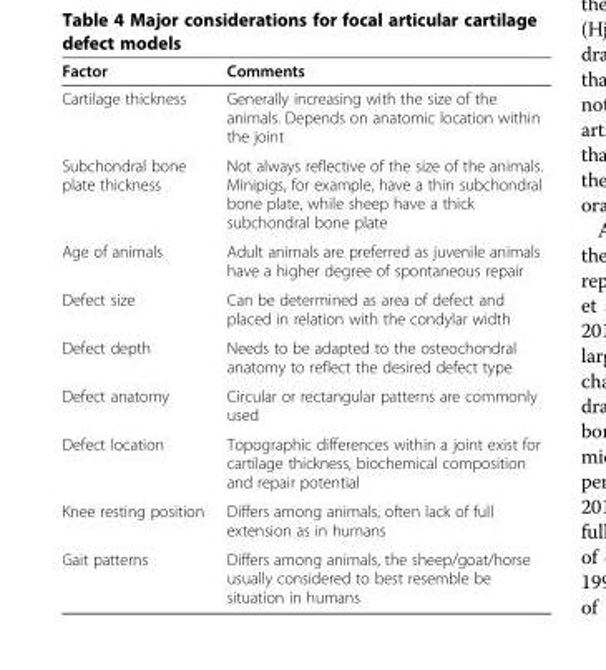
<table><thead><tr><td>Factor</td><td>Comments</td></tr></thead><tbody><tr><td>Cartilage thickness</td><td>Generally increasing with the size of the animals. Depends on anatomic location within the joint</td></tr><tr><td>Subchondral bone plate thickness</td><td>Not always reflective of the size of the animals. Minipigs, for example, have a thin subchondral bone plate, while sheep have a thick subchondral bone plate</td></tr><tr><td>Age of animals</td><td>Adult animals are preferred as juvenile animals have a higher degree of spontaneous repair</td></tr><tr><td>Defect size</td><td>Can be determined as area of defect and placed in relation with the condylar width</td></tr><tr><td>Defect depth</td><td>Needs to be adapted to the osteochondral anatomy to reflect the desired defect type</td></tr><tr><td>Defect anatomy</td><td>Circular or rectangular patterns are commonly used</td></tr><tr><td>Defect location</td><td>Topographic differences within a joint exist for cartilage thickness, biochemical composition and repair potential</td></tr><tr><td>Knee resting position</td><td>Differs among animals, often lack of full extension as in humans</td></tr><tr><td>Gait patterns</td><td>Differs among animals, the sheep/goat/horse usually considered to best resemble be situation in humans</td></tr></tbody></table>